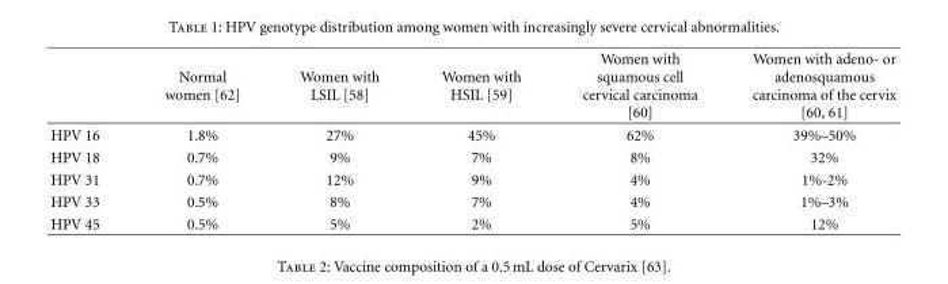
<table><thead><tr><td></td><td>Normal women [62]</td><td>Women with LSIL [58]</td><td>Women with HSIL [59]</td><td>Women with squamous cell cervical carcinoma [60]</td><td>Women with adeno- or adenosquamous carcinoma of the cervix [60, 61]</td></tr></thead><tbody><tr><td>HPV 16</td><td>1.8%</td><td>27%</td><td>45%</td><td>62%</td><td>39%–50%</td></tr><tr><td>HPV 18</td><td>0.7%</td><td>9%</td><td>7%</td><td>8%</td><td>32%</td></tr><tr><td>HPV 31</td><td>0.7%</td><td>12%</td><td>9%</td><td>4%</td><td>1%-2%</td></tr><tr><td>HPV 33</td><td>0.5%</td><td>8%</td><td>7%</td><td>4%</td><td>1%–3%</td></tr><tr><td>HPV 45</td><td>0.5%</td><td>5%</td><td>2%</td><td>5%</td><td>12%</td></tr></tbody></table>